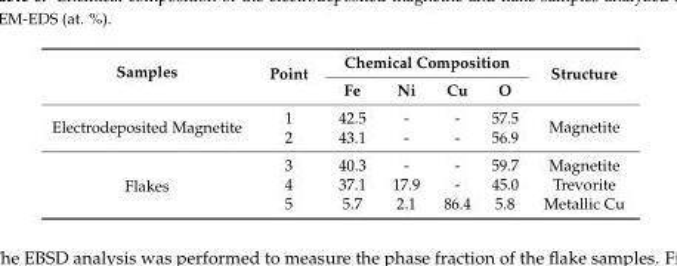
<table><thead><tr><td rowspan="2">Samples</td><td rowspan="2">Point</td><td colspan="4">Chemical Composition</td><td rowspan="2">Structure</td></tr><tr><td>Fe</td><td>Ni</td><td>Cu</td><td>O</td></tr></thead><tbody><tr><td rowspan="2">Electrodeposited Magnetite</td><td>1</td><td>42.5</td><td>-</td><td>-</td><td>57.5</td><td rowspan="2">Magnetite</td></tr><tr><td>2</td><td>43.1</td><td>-</td><td>-</td><td>56.9</td></tr><tr><td rowspan="3">Flakes</td><td>3</td><td>40.3</td><td>-</td><td>-</td><td>59.7</td><td>Magnetite</td></tr><tr><td>4</td><td>37.1</td><td>17.9</td><td>-</td><td>45.0</td><td>Trevorite</td></tr><tr><td>5</td><td>5.7</td><td>2.1</td><td>86.4</td><td>5.8</td><td>Metallic Cu</td></tr></tbody></table>